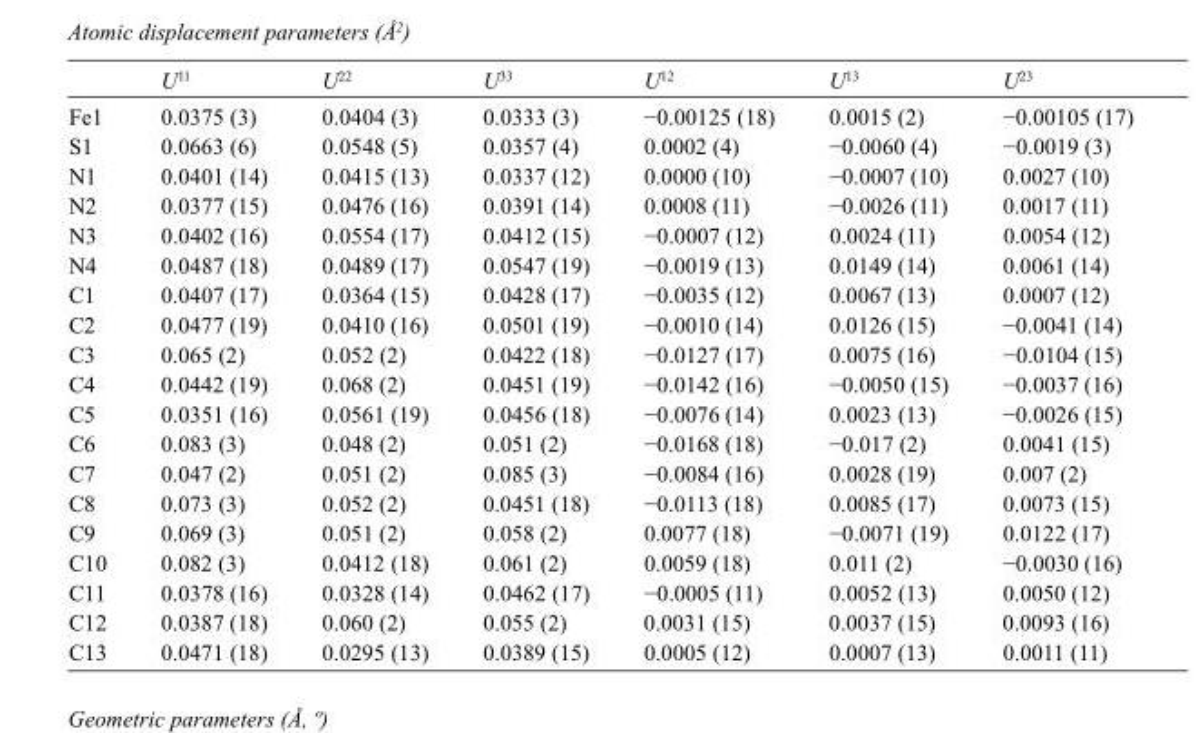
<table><thead><tr><td></td><td>U<sup>11</sup></td><td>U<sup>22</sup></td><td>U<sup>33</sup></td><td>U<sup>12</sup></td><td>U<sup>13</sup></td><td>U<sup>23</sup></td></tr></thead><tbody><tr><td>Fe1</td><td>0.0375 (3)</td><td>0.0404 (3)</td><td>0.0333 (3)</td><td>−0.00125 (18)</td><td>0.0015 (2)</td><td>−0.00105 (17)</td></tr><tr><td>S1</td><td>0.0663 (6)</td><td>0.0548 (5)</td><td>0.0357 (4)</td><td>0.0002 (4)</td><td>−0.0060 (4)</td><td>−0.0019 (3)</td></tr><tr><td>N1</td><td>0.0401 (14)</td><td>0.0415 (13)</td><td>0.0337 (12)</td><td>0.0000 (10)</td><td>−0.0007 (10)</td><td>0.0027 (10)</td></tr><tr><td>N2</td><td>0.0377 (15)</td><td>0.0476 (16)</td><td>0.0391 (14)</td><td>0.0008 (11)</td><td>−0.0026 (11)</td><td>0.0017 (11)</td></tr><tr><td>N3</td><td>0.0402 (16)</td><td>0.0554 (17)</td><td>0.0412 (15)</td><td>−0.0007 (12)</td><td>0.0024 (11)</td><td>0.0054 (12)</td></tr><tr><td>N4</td><td>0.0487 (18)</td><td>0.0489 (17)</td><td>0.0547 (19)</td><td>−0.0019 (13)</td><td>0.0149 (14)</td><td>0.0061 (14)</td></tr><tr><td>C1</td><td>0.0407 (17)</td><td>0.0364 (15)</td><td>0.0428 (17)</td><td>−0.0035 (12)</td><td>0.0067 (13)</td><td>0.0007 (12)</td></tr><tr><td>C2</td><td>0.0477 (19)</td><td>0.0410 (16)</td><td>0.0501 (19)</td><td>−0.0010 (14)</td><td>0.0126 (15)</td><td>−0.0041 (14)</td></tr><tr><td>C3</td><td>0.065 (2)</td><td>0.052 (2)</td><td>0.0422 (18)</td><td>−0.0127 (17)</td><td>0.0075 (16)</td><td>−0.0104 (15)</td></tr><tr><td>C4</td><td>0.0442 (19)</td><td>0.068 (2)</td><td>0.0451 (19)</td><td>−0.0142 (16)</td><td>−0.0050 (15)</td><td>−0.0037 (16)</td></tr><tr><td>C5</td><td>0.0351 (16)</td><td>0.0561 (19)</td><td>0.0456 (18)</td><td>−0.0076 (14)</td><td>0.0023 (13)</td><td>−0.0026 (15)</td></tr><tr><td>C6</td><td>0.083 (3)</td><td>0.048 (2)</td><td>0.051 (2)</td><td>−0.0168 (18)</td><td>−0.017 (2)</td><td>0.0041 (15)</td></tr><tr><td>C7</td><td>0.047 (2)</td><td>0.051 (2)</td><td>0.085 (3)</td><td>−0.0084 (16)</td><td>0.0028 (19)</td><td>0.007 (2)</td></tr><tr><td>C8</td><td>0.073 (3)</td><td>0.052 (2)</td><td>0.0451 (18)</td><td>−0.0113 (18)</td><td>0.0085 (17)</td><td>0.0073 (15)</td></tr><tr><td>C9</td><td>0.069 (3)</td><td>0.051 (2)</td><td>0.058 (2)</td><td>0.0077 (18)</td><td>−0.0071 (19)</td><td>0.0122 (17)</td></tr><tr><td>C10</td><td>0.082 (3)</td><td>0.0412 (18)</td><td>0.061 (2)</td><td>0.0059 (18)</td><td>0.011 (2)</td><td>−0.0030 (16)</td></tr><tr><td>C11</td><td>0.0378 (16)</td><td>0.0328 (14)</td><td>0.0462 (17)</td><td>−0.0005 (11)</td><td>0.0052 (13)</td><td>0.0050 (12)</td></tr><tr><td>C12</td><td>0.0387 (18)</td><td>0.060 (2)</td><td>0.055 (2)</td><td>0.0031 (15)</td><td>0.0037 (15)</td><td>0.0093 (16)</td></tr><tr><td>C13</td><td>0.0471 (18)</td><td>0.0295 (13)</td><td>0.0389 (15)</td><td>0.0005 (12)</td><td>0.0007 (13)</td><td>0.0011 (11)</td></tr></tbody></table>